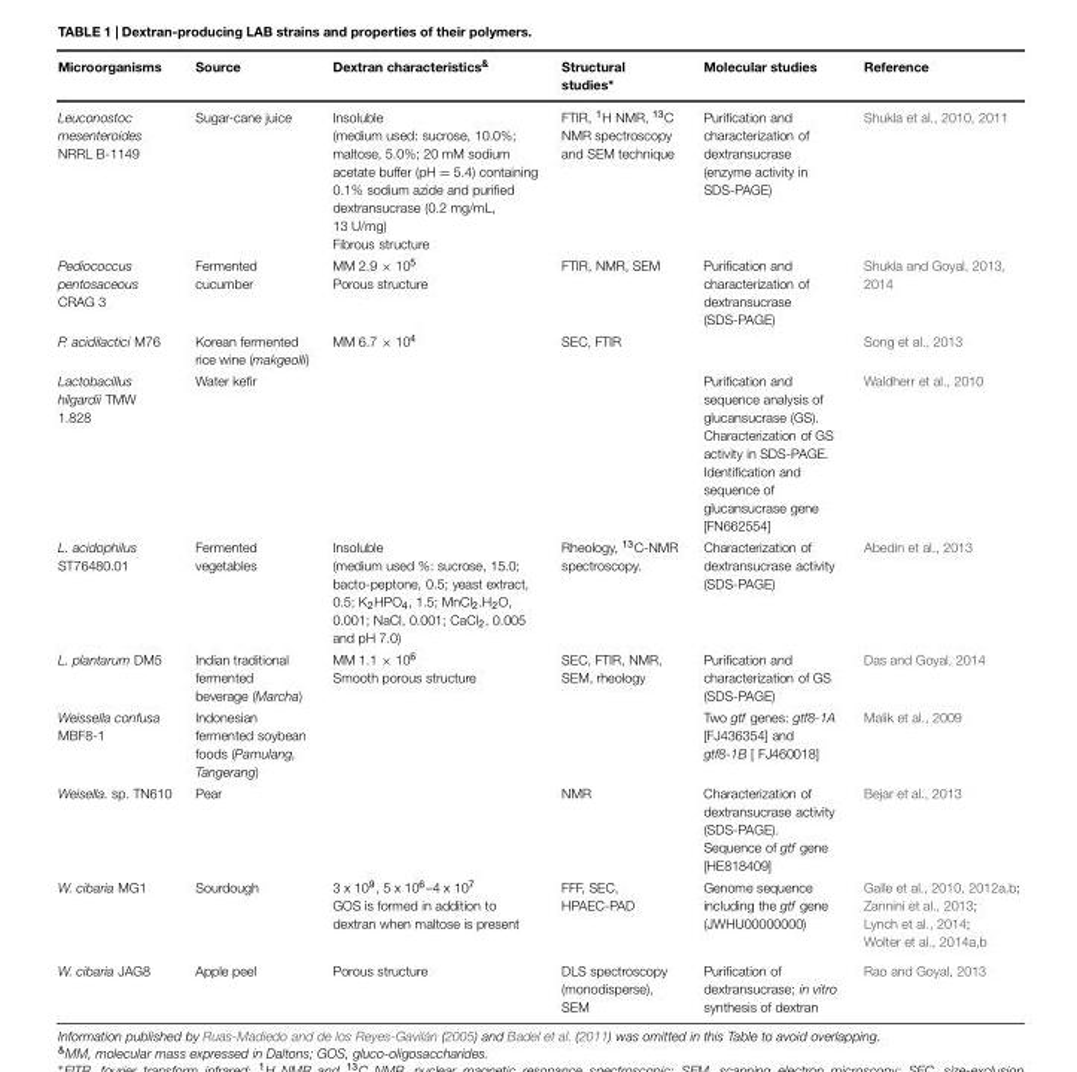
<table><thead><tr><td>Microorganisms</td><td>Source</td><td>Dextran characteristics<sup>&amp;</sup></td><td>Structural studies∗</td><td>Molecular studies</td><td>Reference</td></tr></thead><tbody><tr><td>Leuconostoc mesenteroides NRRL B-1149</td><td>Sugar-cane juice</td><td>Insoluble (medium used: sucrose, 10.0%; maltose, 5.0%; 20 mM sodium acetate buffer (pH = 5.4) containing 0.1% sodium azide and purified dextransucrase (0.2 mg/mL, 13 U/mg) Fibrous structure</td><td>FTIR, <sup>1</sup>H NMR, <sup>13</sup>C NMR spectroscopy and SEM technique</td><td>Purification and characterization of dextransucrase (enzyme activity in SDS-PAGE)</td><td>Shukla et al., 2010, 2011</td></tr><tr><td>Pediococcus pentosaceous CRAG 3</td><td>Fermented cucumber</td><td>MM 2.9 × 10<sup>5</sup> Porous structure</td><td>FTIR, NMR, SEM</td><td>Purification and characterization of dextransucrase (SDS-PAGE)</td><td>Shukla and Goyal, 2013, 2014</td></tr><tr><td>P. acidilactici M76</td><td>Korean fermented rice wine (makgeolli)</td><td>MM 6.7 × 10<sup>4</sup></td><td>SEC, FTIR</td><td></td><td>Song et al., 2013</td></tr><tr><td>Lactobacillus hilgardii TMW 1.828</td><td>Water kefir</td><td></td><td></td><td>Purification and sequence analysis of glucansucrase (GS). Characterization of GS activity in SDS-PAGE. Identification and sequence of glucansucrase gene [FN662554]</td><td>Waldherr et al., 2010</td></tr><tr><td>L. acidophilus ST76480.01</td><td>Fermented vegetables</td><td>Insoluble (medium used %: sucrose, 15.0; bacto-peptone, 0.5; yeast extract, 0.5; K<sub>2</sub>HPO<sub>4</sub>, 1.5; MnCl<sub>2</sub>.H<sub>2</sub>O, 0.001; NaCl, 0.001; CaCl<sub>2</sub>, 0.005 and pH 7.0)</td><td>Rheology, <sup>13</sup>C-NMR spectroscopy.</td><td>Characterization of dextransucrase activity (SDS-PAGE)</td><td>Abedin et al., 2013</td></tr><tr><td>L. plantarum DM5</td><td>Indian traditional fermented beverage (Marcha)</td><td>MM 1.1 × 10<sup>6</sup> Smooth porous structure</td><td>SEC, FTIR, NMR, SEM, rheology</td><td>Purification and characterization of GS (SDS-PAGE)</td><td>Das and Goyal, 2014</td></tr><tr><td>Weissella confusa MBF8-1</td><td>Indonesian fermented soybean foods (Pamulang, Tangerang)</td><td></td><td></td><td>Two gtf genes: gtf8-1A [FJ436354] and gtf8-1B [ FJ460018]</td><td>Malik et al., 2009</td></tr><tr><td>Weisella. sp. TN610</td><td>Pear</td><td></td><td>NMR</td><td>Characterization of dextransucrase activity (SDS-PAGE). Sequence of gtf gene [HE818409]</td><td>Bejar et al., 2013</td></tr><tr><td>W. cibaria MG1</td><td>Sourdough</td><td>3 x 10<sup>9</sup>, 5 x 10<sup>6</sup>–4 x 10<sup>7</sup> GOS is formed in addition to dextran when maltose is present</td><td>FFF, SEC, HPAEC-PAD</td><td>Genome sequence including the gtf gene (JWHU00000000)</td><td>Galle et al., 2010, 2012a,b; Zannini et al., 2013; Lynch et al., 2014; Wolter et al., 2014a,b</td></tr><tr><td>W. cibaria JAG8</td><td>Apple peel</td><td>Porous structure</td><td>DLS spectroscopy (monodisperse), SEM</td><td>Purification of dextransucrase; in vitro synthesis of dextran</td><td>Rao and Goyal, 2013</td></tr></tbody></table>